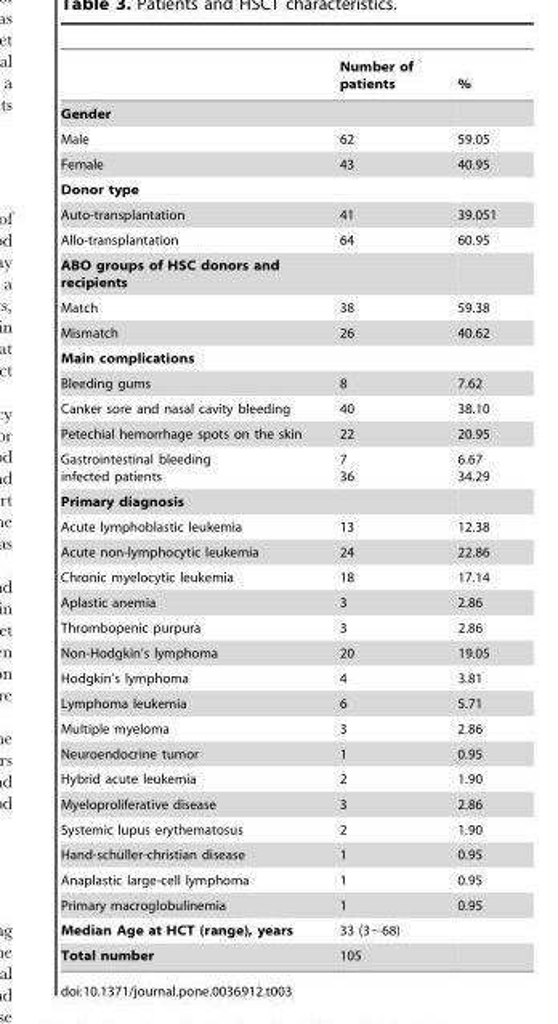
<table><thead><tr><td></td><td>Number of patients</td><td>%</td></tr></thead><tbody><tr><td colspan="3">Gender</td></tr><tr><td>Male</td><td>62</td><td>59.05</td></tr><tr><td>Female</td><td>43</td><td>40.95</td></tr><tr><td colspan="3">Donor type</td></tr><tr><td>Auto-transplantation</td><td>41</td><td>39.051</td></tr><tr><td>Allo-transplantation</td><td>64</td><td>60.95</td></tr><tr><td colspan="3">ABO groups of HSC donors and recipients</td></tr><tr><td>Match</td><td>38</td><td>59.38</td></tr><tr><td>Mismatch</td><td>26</td><td>40.62</td></tr><tr><td colspan="3">Main complications</td></tr><tr><td>Bleeding gums</td><td>8</td><td>7.62</td></tr><tr><td>Canker sore and nasal cavity bleeding</td><td>40</td><td>38.10</td></tr><tr><td>Petechial hemorrhage spots on the skin</td><td>22</td><td>20.95</td></tr><tr><td>Gastrointestinal bleeding infected patients</td><td>7 36</td><td>6.67 34.29</td></tr><tr><td colspan="3">Primary diagnosis</td></tr><tr><td>Acute lymphoblastic leukemia</td><td>13</td><td>12.38</td></tr><tr><td>Acute non-lymphocytic leukemia</td><td>24</td><td>22.86</td></tr><tr><td>Chronic myelocytic leukemia</td><td>18</td><td>17.14</td></tr><tr><td>Aplastic anemia</td><td>3</td><td>2.86</td></tr><tr><td>Thrombopenic purpura</td><td>3</td><td>2.86</td></tr><tr><td>Non-Hodgkin’s lymphoma</td><td>20</td><td>19.05</td></tr><tr><td>Hodgkin’s lymphoma</td><td>4</td><td>3.81</td></tr><tr><td>Lymphoma leukemia</td><td>6</td><td>5.71</td></tr><tr><td>Multiple myeloma</td><td>3</td><td>2.86</td></tr><tr><td>Neuroendocrine tumor</td><td>1</td><td>0.95</td></tr><tr><td>Hybrid acute leukemia</td><td>2</td><td>1.90</td></tr><tr><td>Myeloproliferative disease</td><td>3</td><td>2.86</td></tr><tr><td>Systemic lupus erythematosus</td><td>2</td><td>1.90</td></tr><tr><td>Hand-schu¨ller-christian disease</td><td>1</td><td>0.95</td></tr><tr><td>Anaplastic large-cell lymphoma</td><td>1</td><td>0.95</td></tr><tr><td>Primary macroglobulinemia</td><td>1</td><td>0.95</td></tr><tr><td>Median Age at HCT (range), years</td><td>33 (3∼68)</td><td></td></tr><tr><td>Total number</td><td>105</td><td></td></tr></tbody></table>